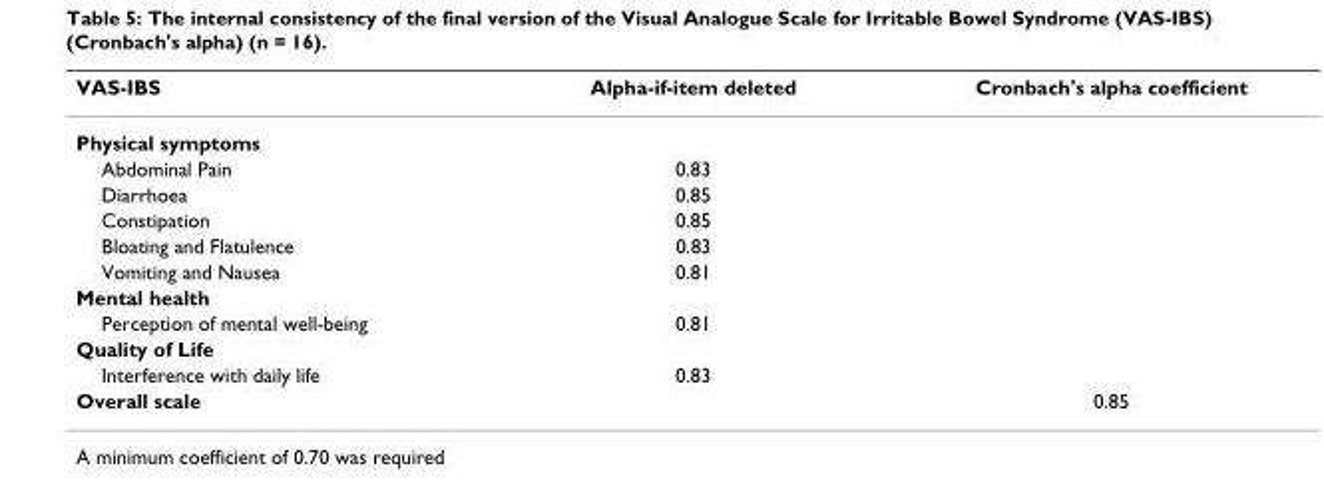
<table><thead><tr><td>VAS-IBS</td><td>Alpha-if-item deleted</td><td>Cronbach&#x27;s alpha coefficient</td></tr></thead><tbody><tr><td colspan="3">Physical symptoms</td></tr><tr><td>Abdominal Pain</td><td>0.83</td><td></td></tr><tr><td>Diarrhoea</td><td>0.85</td><td></td></tr><tr><td>Constipation</td><td>0.85</td><td></td></tr><tr><td>Bloating and Flatulence</td><td>0.83</td><td></td></tr><tr><td>Vomiting and Nausea</td><td>0.81</td><td></td></tr><tr><td colspan="3">Mental health</td></tr><tr><td>Perception of mental well-being</td><td>0.81</td><td></td></tr><tr><td colspan="3">Quality of Life</td></tr><tr><td>Interference with daily life</td><td>0.83</td><td></td></tr><tr><td>Overall scale</td><td></td><td>0.85</td></tr></tbody></table>